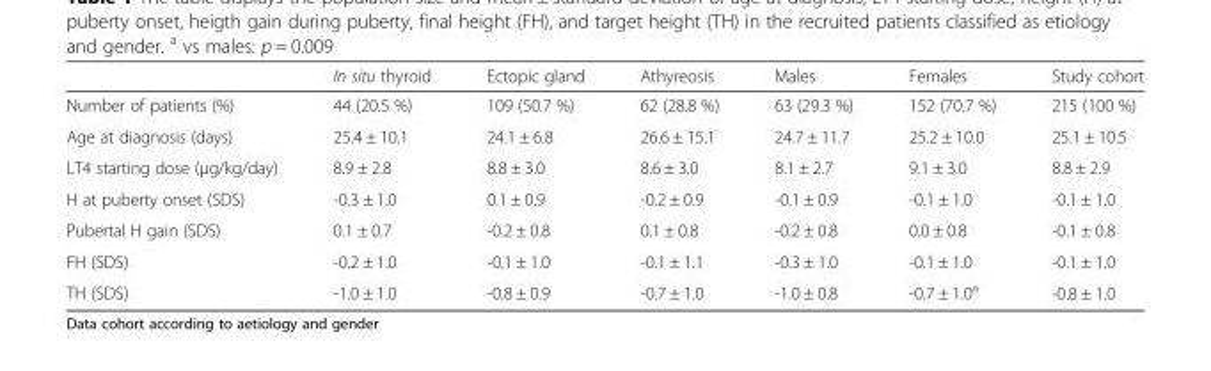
<table><thead><tr><td></td><td>In situ thyroid</td><td>Ectopic gland</td><td>Athyreosis</td><td>Males</td><td>Females</td><td>Study cohort</td></tr></thead><tbody><tr><td>Number of patients (%)</td><td>44 (20.5 %)</td><td>109 (50.7 %)</td><td>62 (28.8 %)</td><td>63 (29.3 %)</td><td>152 (70.7 %)</td><td>215 (100 %)</td></tr><tr><td>Age at diagnosis (days)</td><td>25.4 ± 10.1</td><td>24.1 ± 6.8</td><td>26.6 ± 15.1</td><td>24.7 ± 11.7</td><td>25.2 ± 10.0</td><td>25.1 ± 10.5</td></tr><tr><td>LT4 starting dose (μg/kg/day)</td><td>8.9 ± 2.8</td><td>8.8 ± 3.0</td><td>8.6 ± 3.0</td><td>8.1 ± 2.7</td><td>9.1 ± 3.0</td><td>8.8 ± 2.9</td></tr><tr><td>H at puberty onset (SDS)</td><td>-0.3 ± 1.0</td><td>0.1 ± 0.9</td><td>-0.2 ± 0.9</td><td>-0.1 ± 0.9</td><td>-0.1 ± 1.0</td><td>-0.1 ± 1.0</td></tr><tr><td>Pubertal H gain (SDS)</td><td>0.1 ± 0.7</td><td>-0.2 ± 0.8</td><td>0.1 ± 0.8</td><td>-0.2 ± 0.8</td><td>0.0 ± 0.8</td><td>-0.1 ± 0.8</td></tr><tr><td>FH (SDS)</td><td>-0.2 ± 1.0</td><td>-0.1 ± 1.0</td><td>-0.1 ± 1.1</td><td>-0.3 ± 1.0</td><td>-0.1 ± 1.0</td><td>-0.1 ± 1.0</td></tr><tr><td>TH (SDS)</td><td>-1.0 ± 1.0</td><td>-0.8 ± 0.9</td><td>-0.7 ± 1.0</td><td>-1.0 ± 0.8</td><td>-0.7 ± 1.0<sup>a</sup></td><td>-0.8 ± 1.0</td></tr></tbody></table>